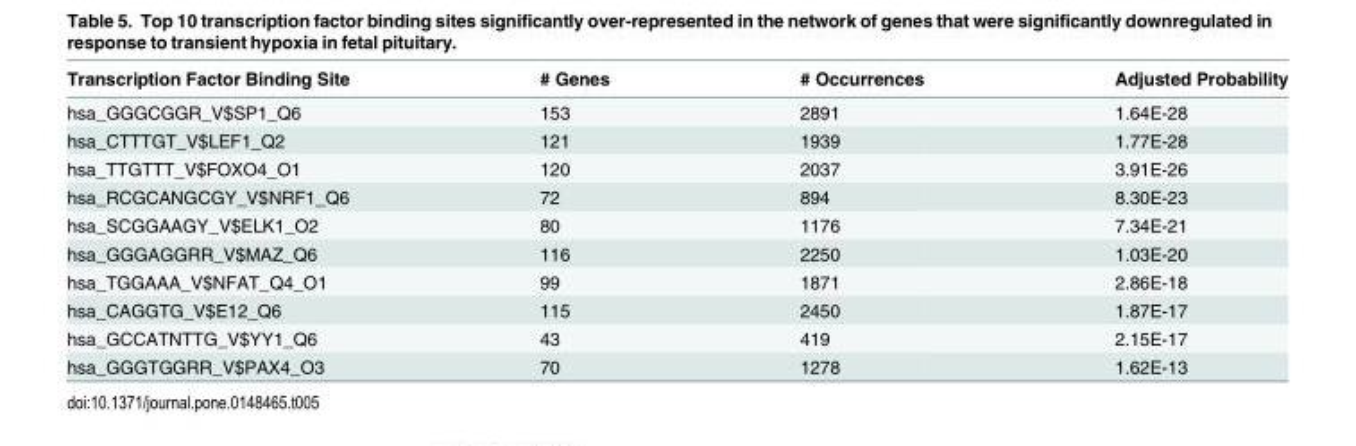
<table><thead><tr><td>Transcription Factor Binding Site</td><td># Genes</td><td># Occurrences</td><td>Adjusted Probability</td></tr></thead><tbody><tr><td>hsa_GGGCGGR_V$SP1_Q6</td><td>153</td><td>2891</td><td>1.64E-28</td></tr><tr><td>hsa_CTTTGT_V$LEF1_Q2</td><td>121</td><td>1939</td><td>1.77E-28</td></tr><tr><td>hsa_TTGTTT_V$FOXO4_O1</td><td>120</td><td>2037</td><td>3.91E-26</td></tr><tr><td>hsa_RCGCANGCGY_V$NRF1_Q6</td><td>72</td><td>894</td><td>8.30E-23</td></tr><tr><td>hsa_SCGGAAGY_V$ELK1_O2</td><td>80</td><td>1176</td><td>7.34E-21</td></tr><tr><td>hsa_GGGAGGRR_V$MAZ_Q6</td><td>116</td><td>2250</td><td>1.03E-20</td></tr><tr><td>hsa_TGGAAA_V$NFAT_Q4_O1</td><td>99</td><td>1871</td><td>2.86E-18</td></tr><tr><td>hsa_CAGGTG_V$E12_Q6</td><td>115</td><td>2450</td><td>1.87E-17</td></tr><tr><td>hsa_GCCATNTTG_V$YY1_Q6</td><td>43</td><td>419</td><td>2.15E-17</td></tr><tr><td>hsa_GGGTGGRR_V$PAX4_O3</td><td>70</td><td>1278</td><td>1.62E-13</td></tr></tbody></table>